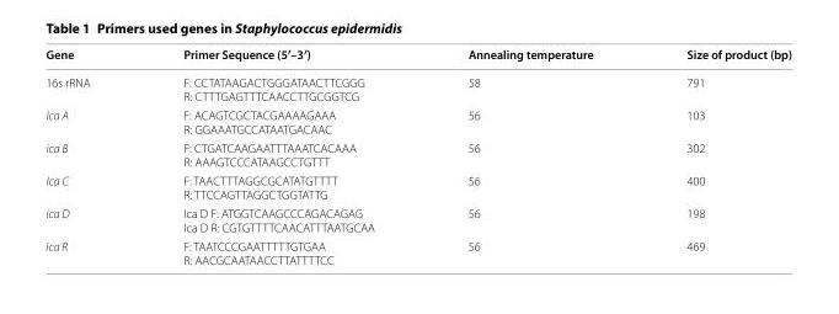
<table><thead><tr><td>Gene</td><td>Primer Sequence (5′–3′)</td><td>Annealing temperature</td><td>Size of product (bp)</td></tr></thead><tbody><tr><td>16s rRNA</td><td>F: CCTATAAGACTGGGATAACTTCGGG R: CTTTGAGTTTCAACCTTGCGGTCG</td><td>58</td><td>791</td></tr><tr><td>Ica A</td><td>F: ACAGTCGCTACGAAAAGAAA R: GGAAATGCCATAATGACAAC</td><td>56</td><td>103</td></tr><tr><td>ica B</td><td>F: CTGATCAAGAATTTAAATCACAAA R: AAAGTCCCATAAGCCTGTTT</td><td>56</td><td>302</td></tr><tr><td>Ica C</td><td>F: TAACTTTAGGCGCATATGTTTT R: TTCCAGTTAGGCTGGTATTG</td><td>56</td><td>400</td></tr><tr><td>ica D</td><td>Ica D F: ATGGTCAAGCCCAGACAGAG Ica D R: CGTGTTTTCAACATTTAATGCAA</td><td>56</td><td>198</td></tr><tr><td>ica R</td><td>F: TAATCCCGAATTTTTGTGAA R: AACGCAATAACCTTATTTTCC</td><td>56</td><td>469</td></tr></tbody></table>